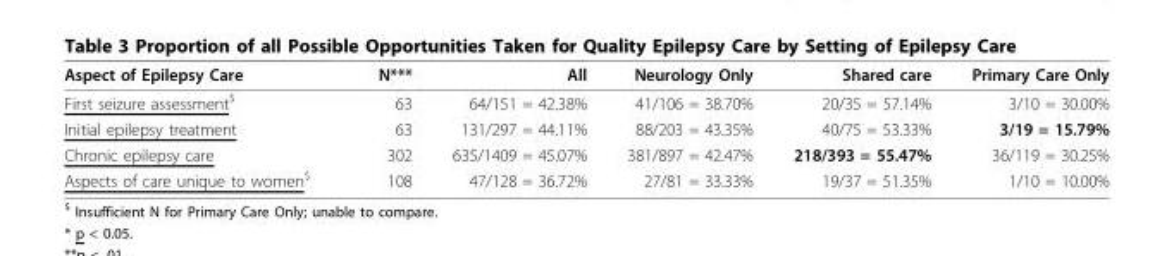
<table><thead><tr><td>Aspect of Epilepsy Care</td><td>N***</td><td>All</td><td>Neurology Only</td><td>Shared care</td><td>Primary Care Only</td></tr></thead><tbody><tr><td>First seizure assessment<sup>$</sup></td><td>63</td><td>64/151 = 42.38%</td><td>41/106 = 38.70%</td><td>20/35 = 57.14%</td><td>3/10 = 30.00%</td></tr><tr><td>Initial epilepsy treatment</td><td>63</td><td>131/297 = 44.11%</td><td>88/203 = 43.35%</td><td>40/75 = 53.33%</td><td>3/19 = 15.79%</td></tr><tr><td>Chronic epilepsy care</td><td>302</td><td>635/1409 = 45.07%</td><td>381/897 = 42.47%</td><td>218/393 = 55.47%</td><td>36/119 = 30.25%</td></tr><tr><td>Aspects of care unique to women<sup>$</sup></td><td>108</td><td>47/128 = 36.72%</td><td>27/81 = 33.33%</td><td>19/37 = 51.35%</td><td>1/10 = 10.00%</td></tr></tbody></table>